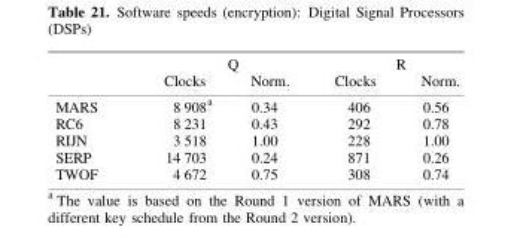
<table><thead><tr><td rowspan="2"></td><td colspan="2">Q</td><td colspan="2">R</td></tr><tr><td>Clocks</td><td>Norm.</td><td>Clocks</td><td>Norm.</td></tr></thead><tbody><tr><td>MARS</td><td>8 908<sup>a</sup></td><td>0.34</td><td>406</td><td>0.56</td></tr><tr><td>RC6</td><td>8 231</td><td>0.43</td><td>292</td><td>0.78</td></tr><tr><td>RIJN</td><td>3 518</td><td>1.00</td><td>228</td><td>1.00</td></tr><tr><td>SERP</td><td>14 703</td><td>0.24</td><td>871</td><td>0.26</td></tr><tr><td>TWOF</td><td>4 672</td><td>0.75</td><td>308</td><td>0.74</td></tr></tbody></table>